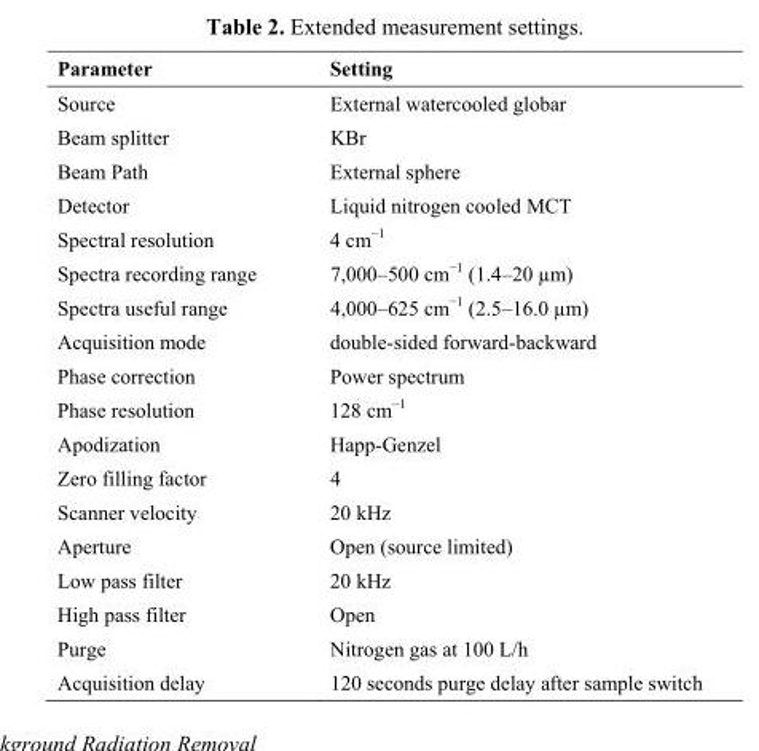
<table><thead><tr><td>Parameter</td><td>Setting</td></tr></thead><tbody><tr><td>Source</td><td>External watercooled globar</td></tr><tr><td>Beam splitter</td><td>KBr</td></tr><tr><td>Beam Path</td><td>External sphere</td></tr><tr><td>Detector</td><td>Liquid nitrogen cooled MCT</td></tr><tr><td>Spectral resolution</td><td>4 cm<sup>−1</sup></td></tr><tr><td>Spectra recording range</td><td>7,000–500 cm<sup>−1</sup> (1.4–20 µm)</td></tr><tr><td>Spectra useful range</td><td>4,000–625 cm<sup>−1</sup> (2.5–16.0 µm)</td></tr><tr><td>Acquisition mode</td><td>double-sided forward-backward</td></tr><tr><td>Phase correction</td><td>Power spectrum</td></tr><tr><td>Phase resolution</td><td>128 cm<sup>−1</sup></td></tr><tr><td>Apodization</td><td>Happ-Genzel</td></tr><tr><td>Zero filling factor</td><td>4</td></tr><tr><td>Scanner velocity</td><td>20 kHz</td></tr><tr><td>Aperture</td><td>Open (source limited)</td></tr><tr><td>Low pass filter</td><td>20 kHz</td></tr><tr><td>High pass filter</td><td>Open</td></tr><tr><td>Purge</td><td>Nitrogen gas at 100 L/h</td></tr><tr><td>Acquisition delay</td><td>120 seconds purge delay after sample switch</td></tr></tbody></table>